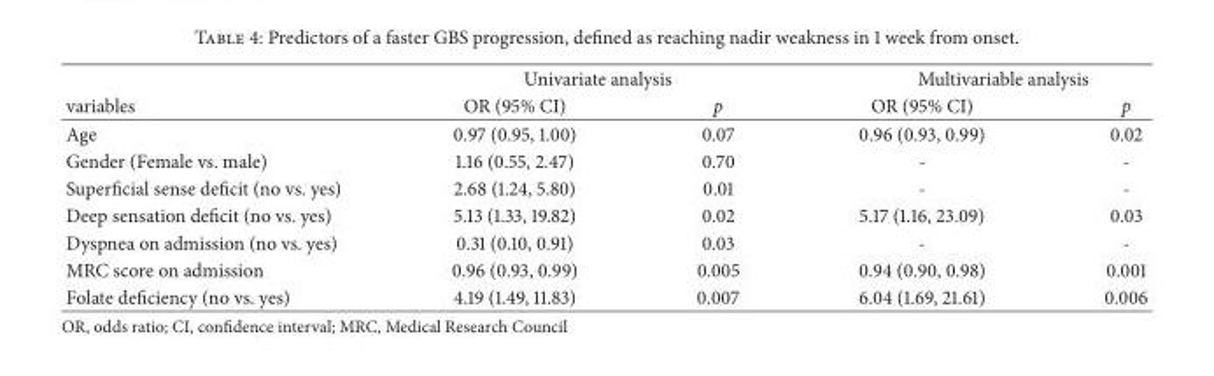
<table><thead><tr><td rowspan="2">variables</td><td colspan="2">Univariate analysis</td><td colspan="2">Multivariable analysis</td></tr><tr><td>OR (95% CI)</td><td>p</td><td>OR (95% CI)</td><td>p</td></tr></thead><tbody><tr><td>Age</td><td>0.97 (0.95, 1.00)</td><td>0.07</td><td>0.96 (0.93, 0.99)</td><td>0.02</td></tr><tr><td>Gender (Female vs. male)</td><td>1.16 (0.55, 2.47)</td><td>0.70</td><td>-</td><td>-</td></tr><tr><td>Superficial sense deficit (no vs. yes)</td><td>2.68 (1.24, 5.80)</td><td>0.01</td><td>-</td><td>-</td></tr><tr><td>Deep sensation deficit (no vs. yes)</td><td>5.13 (1.33, 19.82)</td><td>0.02</td><td>5.17 (1.16, 23.09)</td><td>0.03</td></tr><tr><td>Dyspnea on admission (no vs. yes)</td><td>0.31 (0.10, 0.91)</td><td>0.03</td><td>-</td><td>-</td></tr><tr><td>MRC score on admission</td><td>0.96 (0.93, 0.99)</td><td>0.005</td><td>0.94 (0.90, 0.98)</td><td>0.001</td></tr><tr><td>Folate deficiency (no vs. yes)</td><td>4.19 (1.49, 11.83)</td><td>0.007</td><td>6.04 (1.69, 21.61)</td><td>0.006</td></tr></tbody></table>